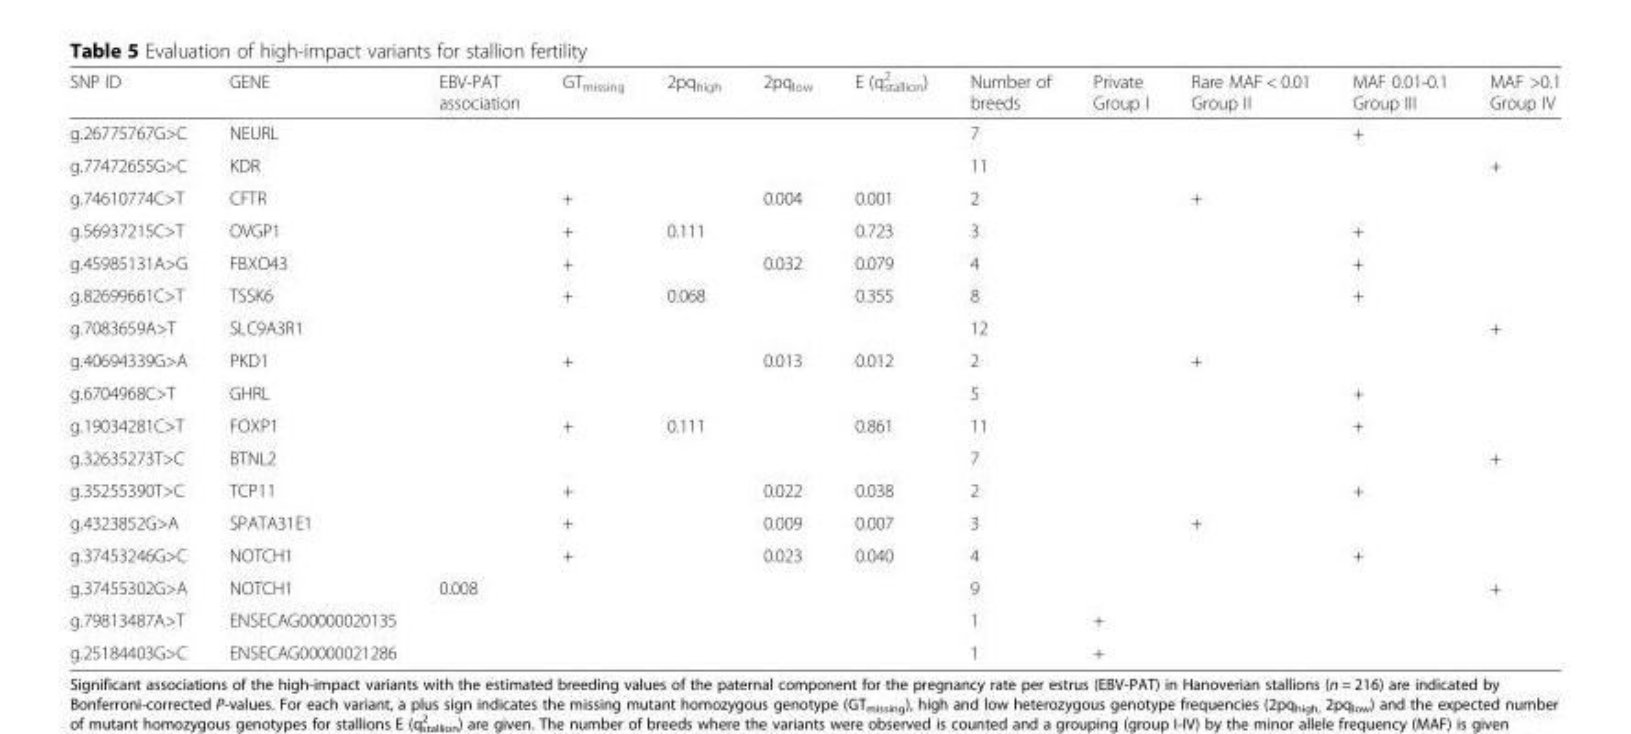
<table><thead><tr><td>SNP ID</td><td>GENE</td><td>EBV-PAT association</td><td>GT<sub>missing</sub></td><td>2pq<sub>high</sub></td><td>2pq<sub>low</sub></td><td>E (q<sup>2</sup> <sub>stallion</sub>)</td><td>Number of breeds</td><td>Private Group I</td><td>Rare MAF &lt; 0.01 Group II</td><td>MAF 0.01-0.1 Group III</td><td>MAF &gt;0.1 Group IV</td></tr></thead><tbody><tr><td>g.26775767G&gt;C</td><td>NEURL</td><td></td><td></td><td></td><td></td><td></td><td>7</td><td></td><td></td><td>+</td><td></td></tr><tr><td>g.77472655G&gt;C</td><td>KDR</td><td></td><td></td><td></td><td></td><td></td><td>11</td><td></td><td></td><td></td><td>+</td></tr><tr><td>g.74610774C&gt;T</td><td>CFTR</td><td></td><td>+</td><td></td><td>0.004</td><td>0.001</td><td>2</td><td></td><td>+</td><td></td><td></td></tr><tr><td>g.56937215C&gt;T</td><td>OVGP1</td><td></td><td>+</td><td>0.111</td><td></td><td>0.723</td><td>3</td><td></td><td></td><td>+</td><td></td></tr><tr><td>g.45985131A&gt;G</td><td>FBXO43</td><td></td><td>+</td><td></td><td>0.032</td><td>0.079</td><td>4</td><td></td><td></td><td>+</td><td></td></tr><tr><td>g.82699661C&gt;T</td><td>TSSK6</td><td></td><td>+</td><td>0.068</td><td></td><td>0.355</td><td>8</td><td></td><td></td><td>+</td><td></td></tr><tr><td>g.7083659A&gt;T</td><td>SLC9A3R1</td><td></td><td></td><td></td><td></td><td></td><td>12</td><td></td><td></td><td></td><td>+</td></tr><tr><td>g.40694339G&gt;A</td><td>PKD1</td><td></td><td>+</td><td></td><td>0.013</td><td>0.012</td><td>2</td><td></td><td>+</td><td></td><td></td></tr><tr><td>g.6704968C&gt;T</td><td>GHRL</td><td></td><td></td><td></td><td></td><td></td><td>5</td><td></td><td></td><td>+</td><td></td></tr><tr><td>g.19034281C&gt;T</td><td>FOXP1</td><td></td><td>+</td><td>0.111</td><td></td><td>0.861</td><td>11</td><td></td><td></td><td>+</td><td></td></tr><tr><td>g.32635273T&gt;C</td><td>BTNL2</td><td></td><td></td><td></td><td></td><td></td><td>7</td><td></td><td></td><td></td><td>+</td></tr><tr><td>g.35255390T&gt;C</td><td>TCP11</td><td></td><td>+</td><td></td><td>0.022</td><td>0.038</td><td>2</td><td></td><td></td><td>+</td><td></td></tr><tr><td>g.4323852G&gt;A</td><td>SPATA31E1</td><td></td><td>+</td><td></td><td>0.009</td><td>0.007</td><td>3</td><td></td><td>+</td><td></td><td></td></tr><tr><td>g.37453246G&gt;C</td><td>NOTCH1</td><td></td><td>+</td><td></td><td>0.023</td><td>0.040</td><td>4</td><td></td><td></td><td>+</td><td></td></tr><tr><td>g.37455302G&gt;A</td><td>NOTCH1</td><td>0.008</td><td></td><td></td><td></td><td></td><td>9</td><td></td><td></td><td></td><td>+</td></tr><tr><td>g.79813487A&gt;T</td><td>ENSECAG00000020135</td><td></td><td></td><td></td><td></td><td></td><td>1</td><td>+</td><td></td><td></td><td></td></tr><tr><td>g.25184403G&gt;C</td><td>ENSECAG00000021286</td><td></td><td></td><td></td><td></td><td></td><td>1</td><td>+</td><td></td><td></td><td></td></tr></tbody></table>